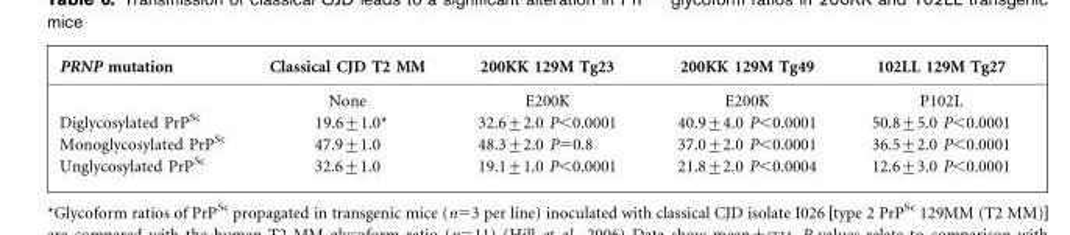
<table><thead><tr><td>PRNP mutation</td><td>Classical CJD T2 MM</td><td>200KK 129M Tg23</td><td>200KK 129M Tg49</td><td>102LL 129M Tg27</td></tr></thead><tbody><tr><td></td><td>None</td><td>E200K</td><td>E200K</td><td>P102L</td></tr><tr><td>Diglycosylated PrP<sup>Sc</sup></td><td>19.6±1.0*</td><td>32.6±2.0 P&lt;0.0001</td><td>40.9±4.0 P&lt;0.0001</td><td>50.8±5.0 P&lt;0.0001</td></tr><tr><td>Monoglycosylated PrP<sup>Sc</sup></td><td>47.9±1.0</td><td>48.3±2.0 P=0.8</td><td>37.0±2.0 P&lt;0.0001</td><td>36.5±2.0 P&lt;0.0001</td></tr><tr><td>Unglycosylated PrP<sup>Sc</sup></td><td>32.6±1.0</td><td>19.1±1.0 P&lt;0.0001</td><td>21.8±2.0 P&lt;0.0004</td><td>12.6±3.0 P&lt;0.0001</td></tr></tbody></table>